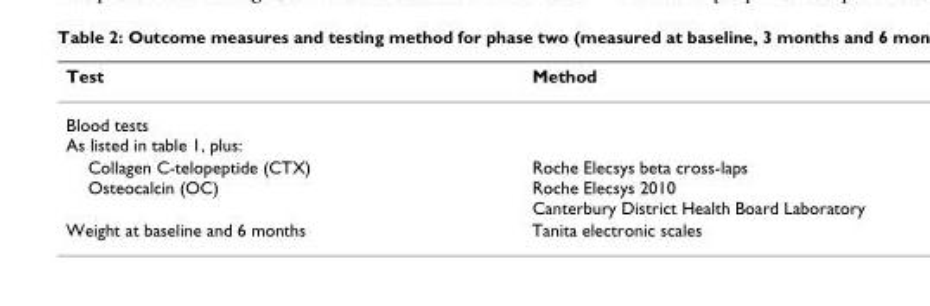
<table><thead><tr><td>Test</td><td>Method</td></tr></thead><tbody><tr><td colspan="2">Blood tests As listed in table 1, plus:</td></tr><tr><td>Collagen C-telopeptide (CTX) Osteocalcin (OC)</td><td>Roche Elecsys beta cross-laps Roche Elecsys 2010 Canterbury District Health Board Laboratory</td></tr><tr><td>Weight at baseline and 6 months</td><td>Tanita electronic scales</td></tr></tbody></table>